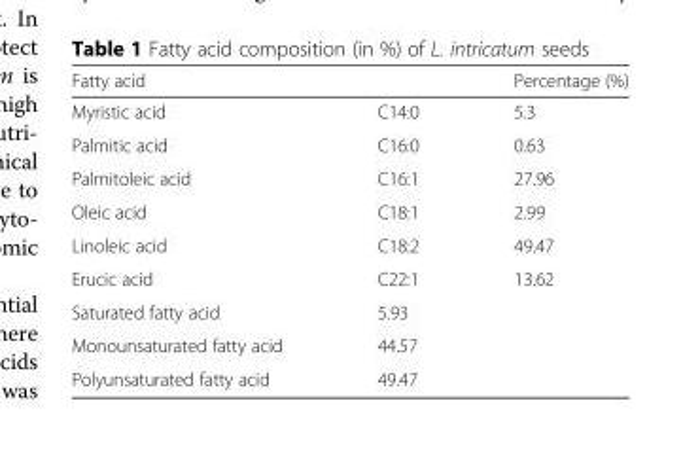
<table><thead><tr><td colspan="2">Fatty acid</td><td rowspan="2">Percentage (%) 5.3</td></tr><tr><td>Myristic acid</td><td>C14:0</td></tr></thead><tbody><tr><td>Palmitic acid</td><td>C16:0</td><td>0.63</td></tr><tr><td>Palmitoleic acid</td><td>C16:1</td><td>27.96</td></tr><tr><td>Oleic acid</td><td>C18:1</td><td>2.99</td></tr><tr><td>Linoleic acid</td><td>C18:2</td><td>49.47</td></tr><tr><td>Erucic acid</td><td>C22:1</td><td>13.62</td></tr><tr><td>Saturated fatty acid</td><td colspan="2">5.93</td></tr><tr><td>Monounsaturated fatty acid</td><td colspan="2">44.57</td></tr><tr><td>Polyunsaturated fatty acid</td><td colspan="2">49.47</td></tr></tbody></table>